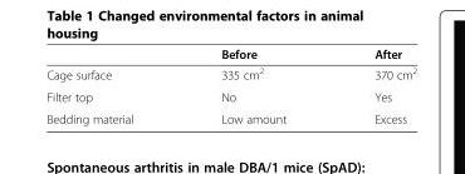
<table><thead><tr><td></td><td>Before</td><td>After</td></tr></thead><tbody><tr><td>Cage surface</td><td>335 cm<sup>2</sup></td><td>370 cm<sup>2</sup></td></tr><tr><td>Filter top</td><td>No</td><td>Yes</td></tr><tr><td>Bedding material</td><td>Low amount</td><td>Excess</td></tr></tbody></table>